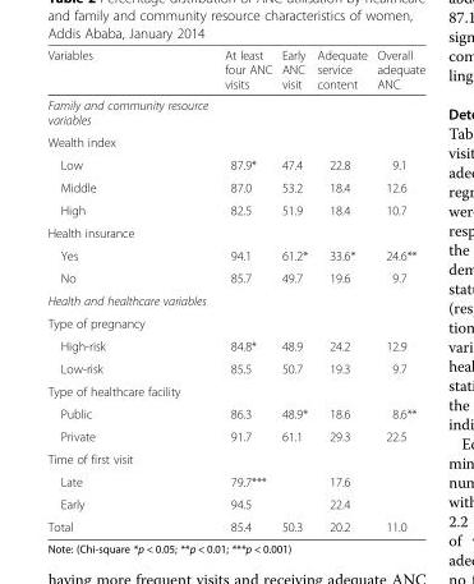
<table><thead><tr><td>Variables</td><td>At least four ANC visits</td><td>Early ANC visit</td><td>Adequate service content</td><td>Overall adequate ANC</td></tr></thead><tbody><tr><td colspan="5">Family and community resource variables</td></tr><tr><td colspan="5">Wealth index</td></tr><tr><td>Low</td><td>87.9*</td><td>47.4</td><td>22.8</td><td>9.1</td></tr><tr><td>Middle</td><td>87.0</td><td>53.2</td><td>18.4</td><td>12.6</td></tr><tr><td>High</td><td>82.5</td><td>51.9</td><td>18.4</td><td>10.7</td></tr><tr><td colspan="5">Health insurance</td></tr><tr><td>Yes</td><td>94.1</td><td>61.2*</td><td>33.6*</td><td>24.6**</td></tr><tr><td>No</td><td>85.7</td><td>49.7</td><td>19.6</td><td>9.7</td></tr><tr><td colspan="5">Health and healthcare variables</td></tr><tr><td colspan="5">Type of pregnancy</td></tr><tr><td>High-risk</td><td>84.8*</td><td>48.9</td><td>24.2</td><td>12.9</td></tr><tr><td>Low-risk</td><td>85.5</td><td>50.7</td><td>19.3</td><td>9.7</td></tr><tr><td colspan="5">Type of healthcare facility</td></tr><tr><td>Public</td><td>86.3</td><td>48.9*</td><td>18.6</td><td>8.6**</td></tr><tr><td>Private</td><td>91.7</td><td>61.1</td><td>29.3</td><td>22.5</td></tr><tr><td colspan="5">Time of first visit</td></tr><tr><td>Late</td><td>79.7***</td><td></td><td>17.6</td><td></td></tr><tr><td>Early</td><td>94.5</td><td></td><td>22.4</td><td></td></tr><tr><td>Total</td><td>85.4</td><td>50.3</td><td>20.2</td><td>11.0</td></tr></tbody></table>